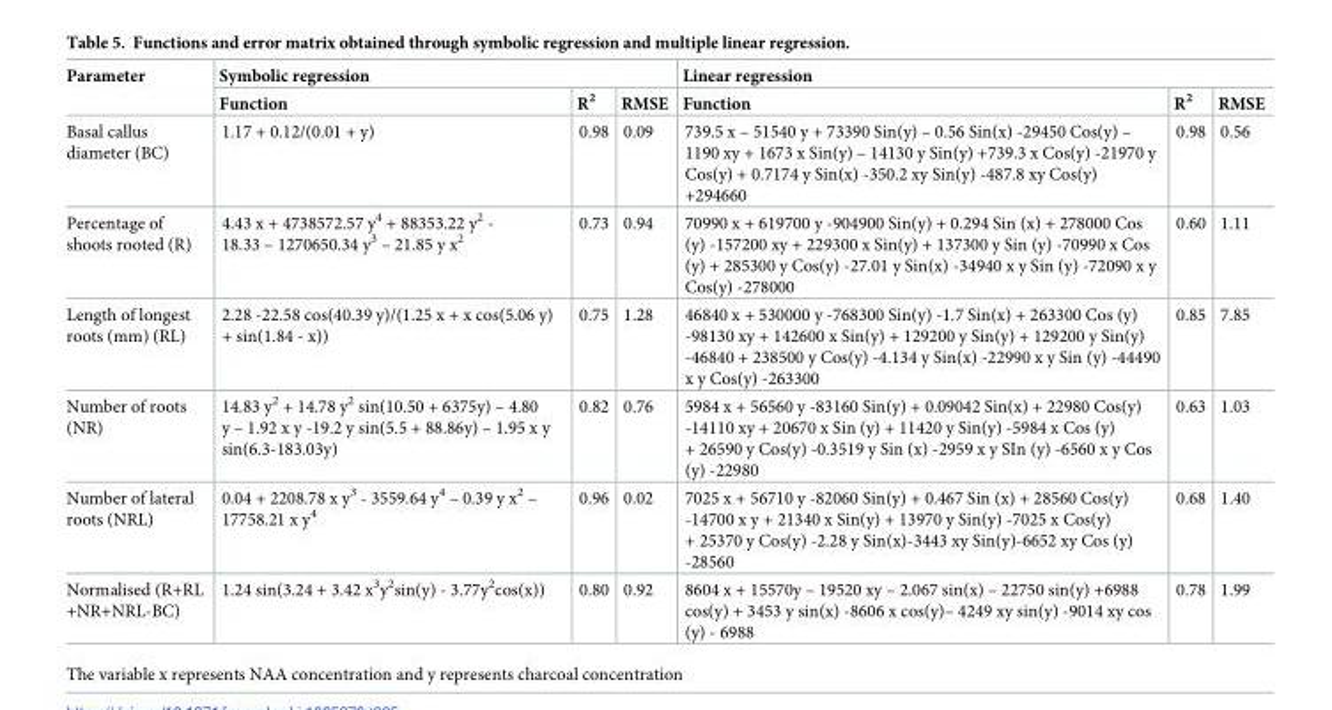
<table><thead><tr><td rowspan="2">Parameter</td><td colspan="3">Symbolic regression</td><td colspan="3">Linear regression</td></tr><tr><td>Function</td><td>R<sup>2</sup></td><td>RMSE</td><td>Function</td><td>R<sup>2</sup></td><td>RMSE</td></tr></thead><tbody><tr><td>Basal callus diameter (BC)</td><td>1.17 + 0.12/(0.01 + y)</td><td>0.98</td><td>0.09</td><td>739.5 x – 51540 y + 73390 Sin(y) – 0.56 Sin(x) -29450 Cos(y) – 1190 xy + 1673 x Sin(y) – 14130 y Sin(y) +739.3 x Cos(y) -21970 y Cos(y) + 0.7174 y Sin(x) -350.2 xy Sin(y) -487.8 xy Cos(y) +294660</td><td>0.98</td><td>0.56</td></tr><tr><td>Percentage of shoots rooted (R)</td><td>4.43 x + 4738572.57 y<sup>4</sup> + 88353.22 y<sup>2</sup> - 18.33 – 1270650.34 y<sup>3</sup> – 21.85 y x<sup>2</sup></td><td>0.73</td><td>0.94</td><td>70990 x + 619700 y -904900 Sin(y) + 0.294 Sin (x) + 278000 Cos (y) -157200 xy + 229300 x Sin(y) + 137300 y Sin (y) -70990 x Cos (y) + 285300 y Cos(y) -27.01 y Sin(x) -34940 x y Sin (y) -72090 x y Cos(y) -278000</td><td>0.60</td><td>1.11</td></tr><tr><td>Length of longest roots (mm) (RL)</td><td>2.28 -22.58 cos(40.39 y)/(1.25 x + x cos(5.06 y) + sin(1.84 - x))</td><td>0.75</td><td>1.28</td><td>46840 x + 530000 y -768300 Sin(y) -1.7 Sin(x) + 263300 Cos (y) -98130 xy + 142600 x Sin(y) + 129200 y Sin(y) + 129200 y Sin(y) -46840 + 238500 y Cos(y) -4.134 y Sin(x) -22990 x y Sin (y) -44490 x y Cos(y) -263300</td><td>0.85</td><td>7.85</td></tr><tr><td>Number of roots (NR)</td><td>14.83 y<sup>2</sup> + 14.78 y<sup>2</sup> sin(10.50 + 6375y) – 4.80 y – 1.92 x y -19.2 y sin(5.5 + 88.86y) – 1.95 x y sin(6.3-183.03y)</td><td>0.82</td><td>0.76</td><td>5984 x + 56560 y -83160 Sin(y) + 0.09042 Sin(x) + 22980 Cos(y) -14110 xy + 20670 x Sin (y) + 11420 y Sin(y) -5984 x Cos (y) + 26590 y Cos(y) -0.3519 y Sin (x) -2959 x y SIn (y) -6560 x y Cos (y) -22980</td><td>0.63</td><td>1.03</td></tr><tr><td>Number of lateral roots (NRL)</td><td>0.04 + 2208.78 x y<sup>3</sup> - 3559.64 y<sup>4</sup> – 0.39 y x<sup>2</sup> – 17758.21 x y<sup>4</sup></td><td>0.96</td><td>0.02</td><td>7025 x + 56710 y -82060 Sin(y) + 0.467 Sin (x) + 28560 Cos(y) -14700 x y + 21340 x Sin(y) + 13970 y Sin(y) -7025 x Cos(y) + 25370 y Cos(y) -2.28 y Sin(x)-3443 xy Sin(y)-6652 xy Cos (y) -28560</td><td>0.68</td><td>1.40</td></tr><tr><td>Normalised (R+RL +NR+NRL-BC)</td><td>1.24 sin(3.24 + 3.42 x<sup>3</sup>y<sup>2</sup>sin(y) - 3.77y<sup>2</sup>cos(x))</td><td>0.80</td><td>0.92</td><td>8604 x + 15570y – 19520 xy – 2.067 sin(x) – 22750 sin(y) +6988 cos(y) + 3453 y sin(x) -8606 x cos(y)– 4249 xy sin(y) -9014 xy cos (y) - 6988</td><td>0.78</td><td>1.99</td></tr></tbody></table>